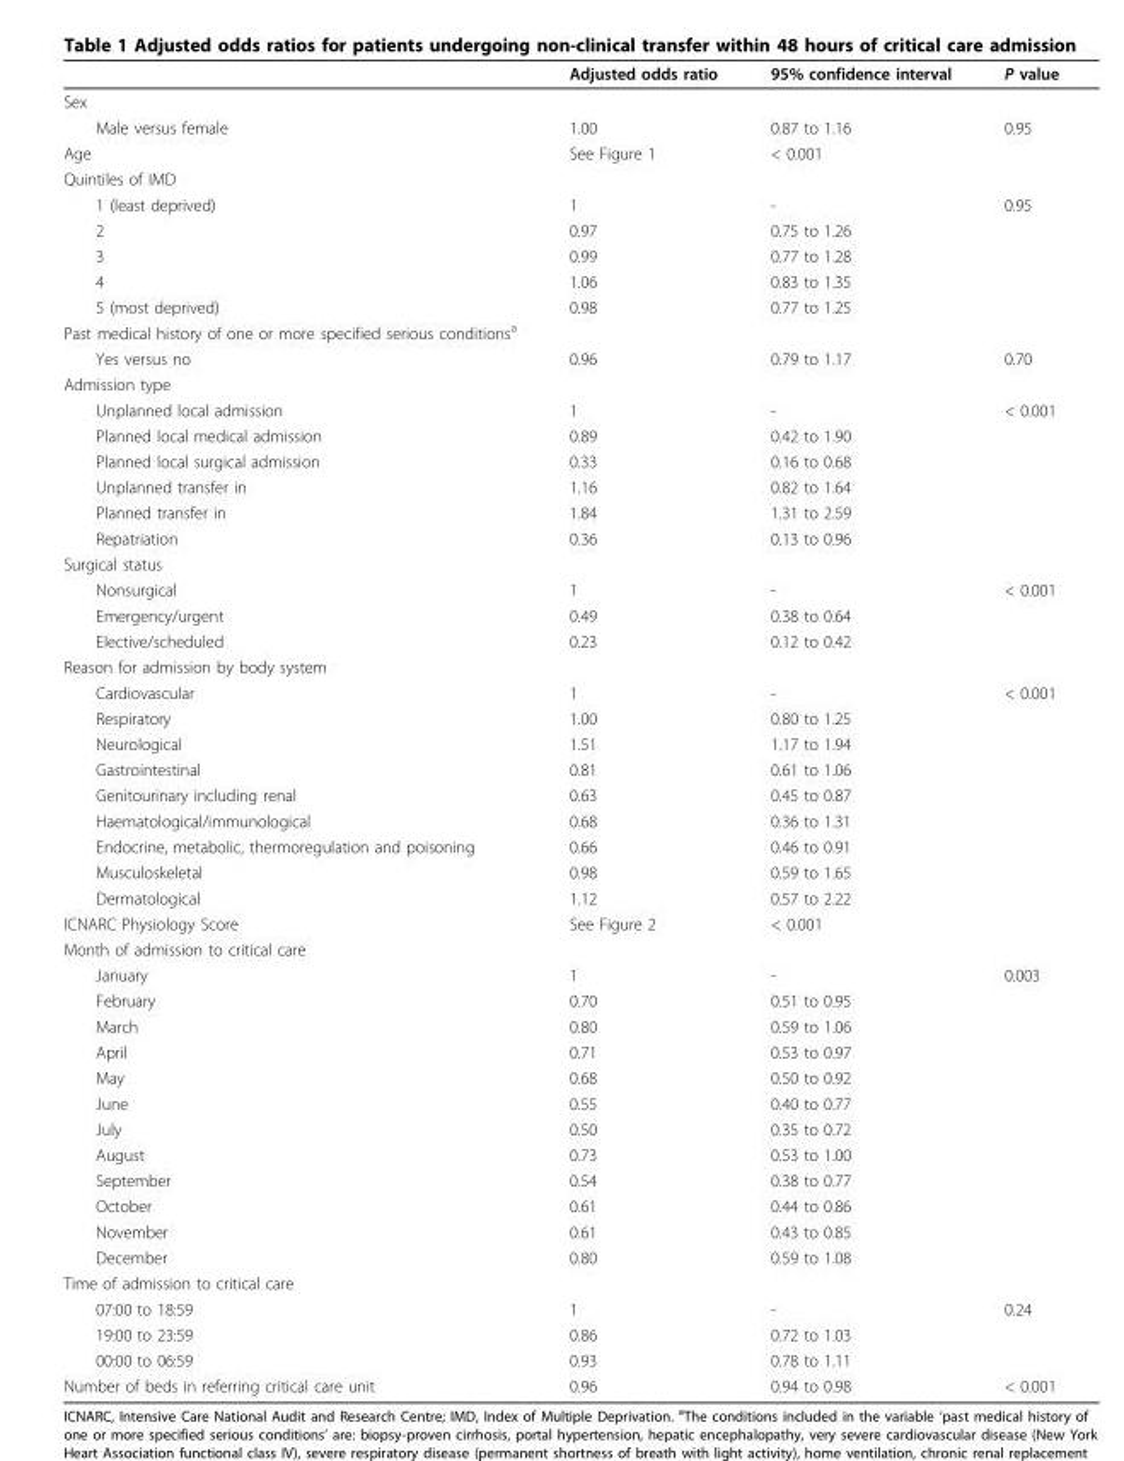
<table><thead><tr><td></td><td>Adjusted odds ratio</td><td>95% confidence interval</td><td>P value</td></tr></thead><tbody><tr><td colspan="4">Sex</td></tr><tr><td>Male versus female</td><td>1.00</td><td>0.87 to 1.16</td><td>0.95</td></tr><tr><td>Age</td><td>See Figure 1</td><td>&lt; 0.001</td><td></td></tr><tr><td colspan="4">Quintiles of IMD</td></tr><tr><td>1 (least deprived)</td><td>1</td><td>-</td><td>0.95</td></tr><tr><td>2</td><td>0.97</td><td>0.75 to 1.26</td><td></td></tr><tr><td>3</td><td>0.99</td><td>0.77 to 1.28</td><td></td></tr><tr><td>4</td><td>1.06</td><td>0.83 to 1.35</td><td></td></tr><tr><td>5 (most deprived)</td><td>0.98</td><td>0.77 to 1.25</td><td></td></tr><tr><td colspan="4">Past medical history of one or more specified serious conditions<sup>a</sup></td></tr><tr><td>Yes versus no</td><td>0.96</td><td>0.79 to 1.17</td><td>0.70</td></tr><tr><td colspan="4">Admission type</td></tr><tr><td>Unplanned local admission</td><td>1</td><td>-</td><td>&lt; 0.001</td></tr><tr><td>Planned local medical admission</td><td>0.89</td><td>0.42 to 1.90</td><td></td></tr><tr><td>Planned local surgical admission</td><td>0.33</td><td>0.16 to 0.68</td><td></td></tr><tr><td>Unplanned transfer in</td><td>1.16</td><td>0.82 to 1.64</td><td></td></tr><tr><td>Planned transfer in</td><td>1.84</td><td>1.31 to 2.59</td><td></td></tr><tr><td>Repatriation</td><td>0.36</td><td>0.13 to 0.96</td><td></td></tr><tr><td colspan="4">Surgical status</td></tr><tr><td>Nonsurgical</td><td>1</td><td>-</td><td>&lt; 0.001</td></tr><tr><td>Emergency/urgent</td><td>0.49</td><td>0.38 to 0.64</td><td></td></tr><tr><td>Elective/scheduled</td><td>0.23</td><td>0.12 to 0.42</td><td></td></tr><tr><td colspan="4">Reason for admission by body system</td></tr><tr><td>Cardiovascular</td><td>1</td><td>-</td><td>&lt; 0.001</td></tr><tr><td>Respiratory</td><td>1.00</td><td>0.80 to 1.25</td><td></td></tr><tr><td>Neurological</td><td>1.51</td><td>1.17 to 1.94</td><td></td></tr><tr><td>Gastrointestinal</td><td>0.81</td><td>0.61 to 1.06</td><td></td></tr><tr><td>Genitourinary including renal</td><td>0.63</td><td>0.45 to 0.87</td><td></td></tr><tr><td>Haematological/immunological</td><td>0.68</td><td>0.36 to 1.31</td><td></td></tr><tr><td>Endocrine, metabolic, thermoregulation and poisoning</td><td>0.66</td><td>0.46 to 0.91</td><td></td></tr><tr><td>Musculoskeletal</td><td>0.98</td><td>0.59 to 1.65</td><td></td></tr><tr><td>Dermatological</td><td>1.12</td><td>0.57 to 2.22</td><td></td></tr><tr><td>ICNARC Physiology Score</td><td>See Figure 2</td><td>&lt; 0.001</td><td></td></tr><tr><td colspan="4">Month of admission to critical care</td></tr><tr><td>January</td><td>1</td><td>-</td><td>0.003</td></tr><tr><td>February</td><td>0.70</td><td>0.51 to 0.95</td><td></td></tr><tr><td>March</td><td>0.80</td><td>0.59 to 1.06</td><td></td></tr><tr><td>April</td><td>0.71</td><td>0.53 to 0.97</td><td></td></tr><tr><td>May</td><td>0.68</td><td>0.50 to 0.92</td><td></td></tr><tr><td>June</td><td>0.55</td><td>0.40 to 0.77</td><td></td></tr><tr><td>July</td><td>0.50</td><td>0.35 to 0.72</td><td></td></tr><tr><td>August</td><td>0.73</td><td>0.53 to 1.00</td><td></td></tr><tr><td>September</td><td>0.54</td><td>0.38 to 0.77</td><td></td></tr><tr><td>October</td><td>0.61</td><td>0.44 to 0.86</td><td></td></tr><tr><td>November</td><td>0.61</td><td>0.43 to 0.85</td><td></td></tr><tr><td>December</td><td>0.80</td><td>0.59 to 1.08</td><td></td></tr><tr><td colspan="4">Time of admission to critical care</td></tr><tr><td>07:00 to 18:59</td><td>1</td><td>-</td><td>0.24</td></tr><tr><td>19:00 to 23:59</td><td>0.86</td><td>0.72 to 1.03</td><td></td></tr><tr><td>00:00 to 06:59</td><td>0.93</td><td>0.78 to 1.11</td><td></td></tr><tr><td>Number of beds in referring critical care unit</td><td>0.96</td><td>0.94 to 0.98</td><td>&lt; 0.001</td></tr></tbody></table>